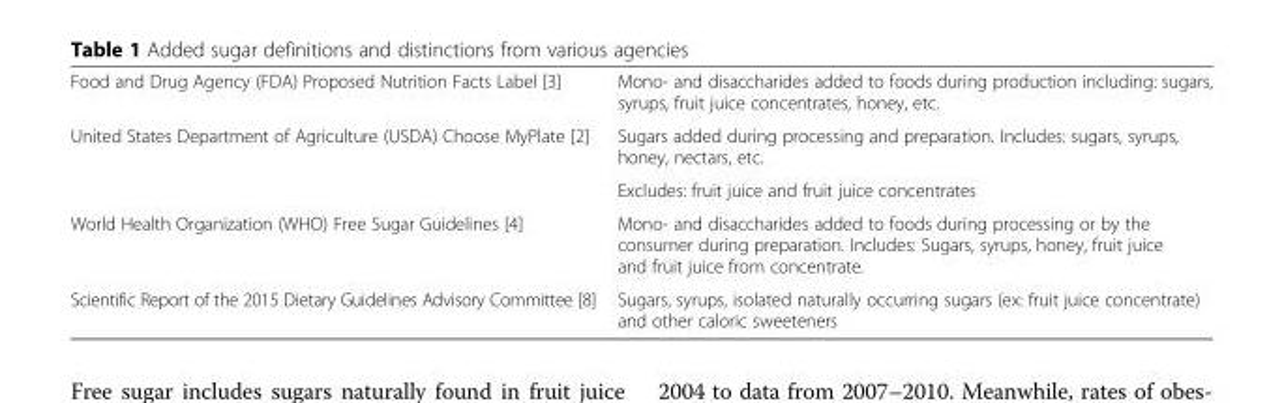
<table><tbody><tr><td>Food and Drug Agency (FDA) Proposed Nutrition Facts Label [3]</td><td>Mono- and disaccharides added to foods during production including: sugars, syrups, fruit juice concentrates, honey, etc.</td></tr><tr><td rowspan="2">United States Department of Agriculture (USDA) Choose MyPlate [2]</td><td>Sugars added during processing and preparation. Includes: sugars, syrups, honey, nectars, etc.</td></tr><tr><td>Excludes: fruit juice and fruit juice concentrates</td></tr><tr><td>World Health Organization (WHO) Free Sugar Guidelines [4]</td><td>Mono- and disaccharides added to foods during processing or by the consumer during preparation. Includes: Sugars, syrups, honey, fruit juice and fruit juice from concentrate.</td></tr><tr><td>Scientific Report of the 2015 Dietary Guidelines Advisory Committee [8]</td><td>Sugars, syrups, isolated naturally occurring sugars (ex: fruit juice concentrate) and other caloric sweeteners</td></tr></tbody></table>